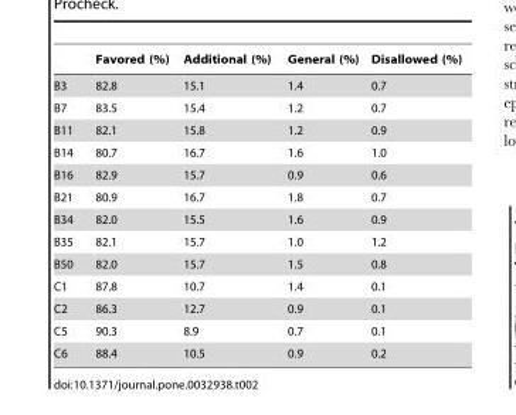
<table><thead><tr><td></td><td>Favored (%)</td><td>Additional (%)</td><td>General (%)</td><td>Disallowed (%)</td></tr></thead><tbody><tr><td>B3</td><td>82.8</td><td>15.1</td><td>1.4</td><td>0.7</td></tr><tr><td>B7</td><td>83.5</td><td>15.4</td><td>1.2</td><td>0.7</td></tr><tr><td>B11</td><td>82.1</td><td>15.8</td><td>1.2</td><td>0.9</td></tr><tr><td>B14</td><td>80.7</td><td>16.7</td><td>1.6</td><td>1.0</td></tr><tr><td>B16</td><td>82.9</td><td>15.7</td><td>0.9</td><td>0.6</td></tr><tr><td>B21</td><td>80.9</td><td>16.7</td><td>1.8</td><td>0.7</td></tr><tr><td>B34</td><td>82.0</td><td>15.5</td><td>1.6</td><td>0.9</td></tr><tr><td>B35</td><td>82.1</td><td>15.7</td><td>1.0</td><td>1.2</td></tr><tr><td>B50</td><td>82.0</td><td>15.7</td><td>1.5</td><td>0.8</td></tr><tr><td>C1</td><td>87.8</td><td>10.7</td><td>1.4</td><td>0.1</td></tr><tr><td>C2</td><td>86.3</td><td>12.7</td><td>0.9</td><td>0.1</td></tr><tr><td>C5</td><td>90.3</td><td>8.9</td><td>0.7</td><td>0.1</td></tr><tr><td>C6</td><td>88.4</td><td>10.5</td><td>0.9</td><td>0.2</td></tr></tbody></table>